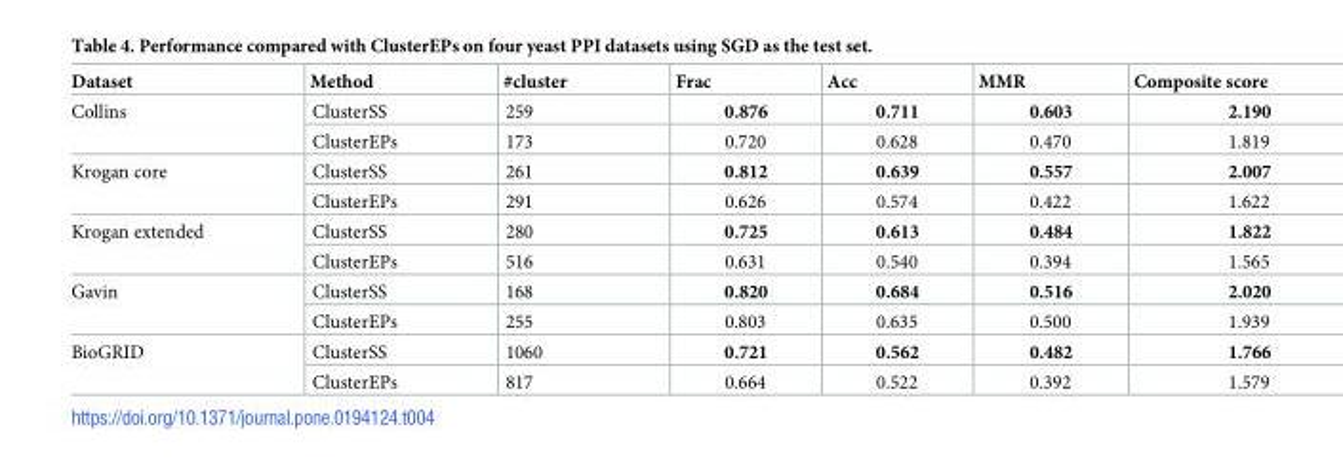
<table><thead><tr><td>Dataset</td><td>Method</td><td>#cluster</td><td>Frac</td><td>Acc</td><td>MMR</td><td>Composite score</td></tr></thead><tbody><tr><td rowspan="2">Collins</td><td>ClusterSS</td><td>259</td><td>0.876</td><td>0.711</td><td>0.603</td><td>2.190</td></tr><tr><td>ClusterEPs</td><td>173</td><td>0.720</td><td>0.628</td><td>0.470</td><td>1.819</td></tr><tr><td rowspan="2">Krogan core</td><td>ClusterSS</td><td>261</td><td>0.812</td><td>0.639</td><td>0.557</td><td>2.007</td></tr><tr><td>ClusterEPs</td><td>291</td><td>0.626</td><td>0.574</td><td>0.422</td><td>1.622</td></tr><tr><td rowspan="2">Krogan extended</td><td>ClusterSS</td><td>280</td><td>0.725</td><td>0.613</td><td>0.484</td><td>1.822</td></tr><tr><td>ClusterEPs</td><td>516</td><td>0.631</td><td>0.540</td><td>0.394</td><td>1.565</td></tr><tr><td rowspan="2">Gavin</td><td>ClusterSS</td><td>168</td><td>0.820</td><td>0.684</td><td>0.516</td><td>2.020</td></tr><tr><td>ClusterEPs</td><td>255</td><td>0.803</td><td>0.635</td><td>0.500</td><td>1.939</td></tr><tr><td rowspan="2">BioGRID</td><td>ClusterSS</td><td>1060</td><td>0.721</td><td>0.562</td><td>0.482</td><td>1.766</td></tr><tr><td>ClusterEPs</td><td>817</td><td>0.664</td><td>0.522</td><td>0.392</td><td>1.579</td></tr></tbody></table>